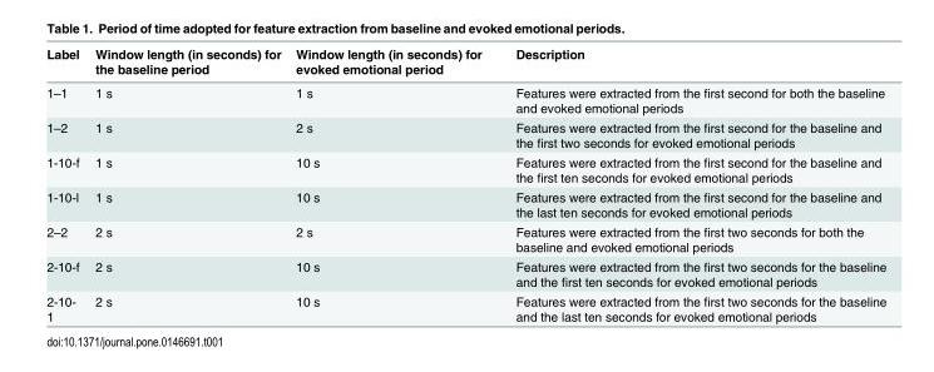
<table><thead><tr><td>Label</td><td>Window length (in seconds) for the baseline period</td><td>Window length (in seconds) for evoked emotional period</td><td>Description</td></tr></thead><tbody><tr><td>1–1</td><td>1 s</td><td>1 s</td><td>Features were extracted from the first second for both the baseline and evoked emotional periods</td></tr><tr><td>1–2</td><td>1 s</td><td>2 s</td><td>Features were extracted from the first second for the baseline and the first two seconds for evoked emotional periods</td></tr><tr><td>1-10-f</td><td>1 s</td><td>10 s</td><td>Features were extracted from the first second for the baseline and the first ten seconds for evoked emotional periods</td></tr><tr><td>1-10-l</td><td>1 s</td><td>10 s</td><td>Features were extracted from the first second for the baseline and the last ten seconds for evoked emotional periods</td></tr><tr><td>2–2</td><td>2 s</td><td>2 s</td><td>Features were extracted from the first two seconds for both the baseline and evoked emotional periods</td></tr><tr><td>2-10-f</td><td>2 s</td><td>10 s</td><td>Features were extracted from the first two seconds for the baseline and the first ten seconds for evoked emotional periods</td></tr><tr><td>2-10- 1</td><td>2 s</td><td>10 s</td><td>Features were extracted from the first two seconds for the baseline and the last ten seconds for evoked emotional periods</td></tr></tbody></table>